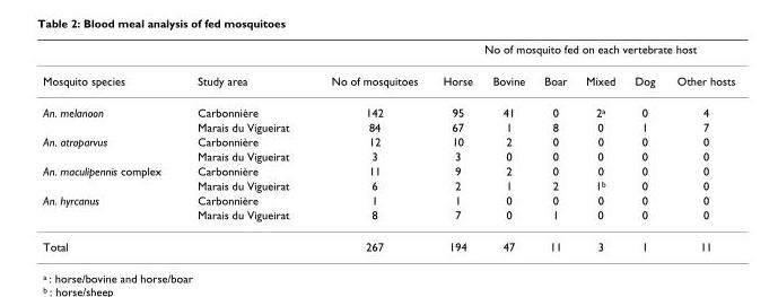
<table><thead><tr><td rowspan="2">Mosquito species</td><td rowspan="2">Study area</td><td rowspan="2">No of mosquitoes</td><td colspan="6">No of mosquito fed on each vertebrate host</td></tr><tr><td>Horse</td><td>Bovine</td><td>Boar</td><td>Mixed</td><td>Dog</td><td>Other hosts</td></tr></thead><tbody><tr><td rowspan="2">An. melanoon</td><td>Carbonnière</td><td>142</td><td>95</td><td>41</td><td>0</td><td>2<sup>a</sup></td><td>0</td><td>4</td></tr><tr><td>Marais du Vigueirat</td><td>84</td><td>67</td><td>1</td><td>8</td><td>0</td><td>1</td><td>7</td></tr><tr><td rowspan="2">An. atroparvus</td><td>Carbonnière</td><td>12</td><td>10</td><td>2</td><td>0</td><td>0</td><td>0</td><td>0</td></tr><tr><td>Marais du Vigueirat</td><td>3</td><td>3</td><td>0</td><td>0</td><td>0</td><td>0</td><td>0</td></tr><tr><td rowspan="2">An. maculipennis complex</td><td>Carbonnière</td><td>11</td><td>9</td><td>2</td><td>0</td><td>0</td><td>0</td><td>0</td></tr><tr><td>Marais du Vigueirat</td><td>6</td><td>2</td><td>1</td><td>2</td><td>1<sup>b</sup></td><td>0</td><td>0</td></tr><tr><td rowspan="2">An. hyrcanus</td><td>Carbonnière</td><td>1</td><td>1</td><td>0</td><td>0</td><td>0</td><td>0</td><td>0</td></tr><tr><td>Marais du Vigueirat</td><td>8</td><td>7</td><td>0</td><td>1</td><td>0</td><td>0</td><td>0</td></tr><tr><td>Total</td><td></td><td>267</td><td>194</td><td>47</td><td>11</td><td>3</td><td>1</td><td>11</td></tr></tbody></table>